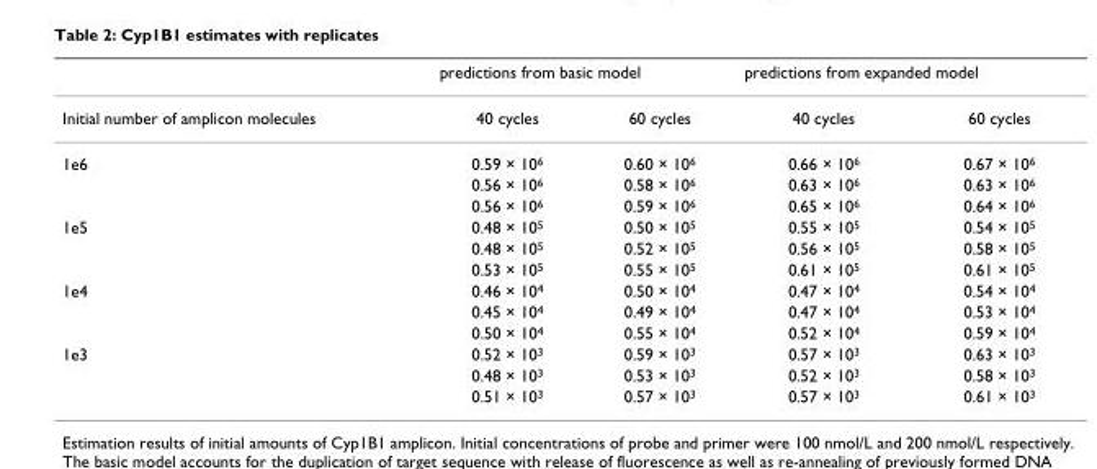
<table><thead><tr><td rowspan="2">Initial number of amplicon molecules</td><td colspan="2">predictions from basic model</td><td colspan="2">predictions from expanded model</td></tr><tr><td>40 cycles</td><td>60 cycles</td><td>40 cycles</td><td>60 cycles</td></tr></thead><tbody><tr><td rowspan="3">1e6</td><td>0.59 × 10<sup>6</sup></td><td>0.60 × 10<sup>6</sup></td><td>0.66 × 10<sup>6</sup></td><td>0.67 × 10<sup>6</sup></td></tr><tr><td>0.56 × 10<sup>6</sup></td><td>0.58 × 10<sup>6</sup></td><td>0.63 × 10<sup>6</sup></td><td>0.63 × 10<sup>6</sup></td></tr><tr><td>0.56 × 10<sup>6</sup></td><td>0.59 × 10<sup>6</sup></td><td>0.65 × 10<sup>6</sup></td><td>0.64 × 10<sup>6</sup></td></tr><tr><td rowspan="3">1e5</td><td>0.48 × 10<sup>5</sup></td><td>0.50 × 10<sup>5</sup></td><td>0.55 × 10<sup>5</sup></td><td>0.54 × 10<sup>5</sup></td></tr><tr><td>0.48 × 10<sup>5</sup></td><td>0.52 × 10<sup>5</sup></td><td>0.56 × 10<sup>5</sup></td><td>0.58 × 10<sup>5</sup></td></tr><tr><td>0.53 × 10<sup>5</sup></td><td>0.55 × 10<sup>5</sup></td><td>0.61 × 10<sup>5</sup></td><td>0.61 × 10<sup>5</sup></td></tr><tr><td rowspan="3">1e4</td><td>0.46 × 10<sup>4</sup></td><td>0.50 × 10<sup>4</sup></td><td>0.47 × 10<sup>4</sup></td><td>0.54 × 10<sup>4</sup></td></tr><tr><td>0.45 × 10<sup>4</sup></td><td>0.49 × 10<sup>4</sup></td><td>0.47 × 10<sup>4</sup></td><td>0.53 × 10<sup>4</sup></td></tr><tr><td>0.50 × 10<sup>4</sup></td><td>0.55 × 10<sup>4</sup></td><td>0.52 × 10<sup>4</sup></td><td>0.59 × 10<sup>4</sup></td></tr><tr><td rowspan="3">1e3</td><td>0.52 × 10<sup>3</sup></td><td>0.59 × 10<sup>3</sup></td><td>0.57 × 10<sup>3</sup></td><td>0.63 × 10<sup>3</sup></td></tr><tr><td>0.48 × 10<sup>3</sup></td><td>0.53 × 10<sup>3</sup></td><td>0.52 × 10<sup>3</sup></td><td>0.58 × 10<sup>3</sup></td></tr><tr><td>0.51 × 10<sup>3</sup></td><td>0.57 × 10<sup>3</sup></td><td>0.57 × 10<sup>3</sup></td><td>0.61 × 10<sup>3</sup></td></tr></tbody></table>